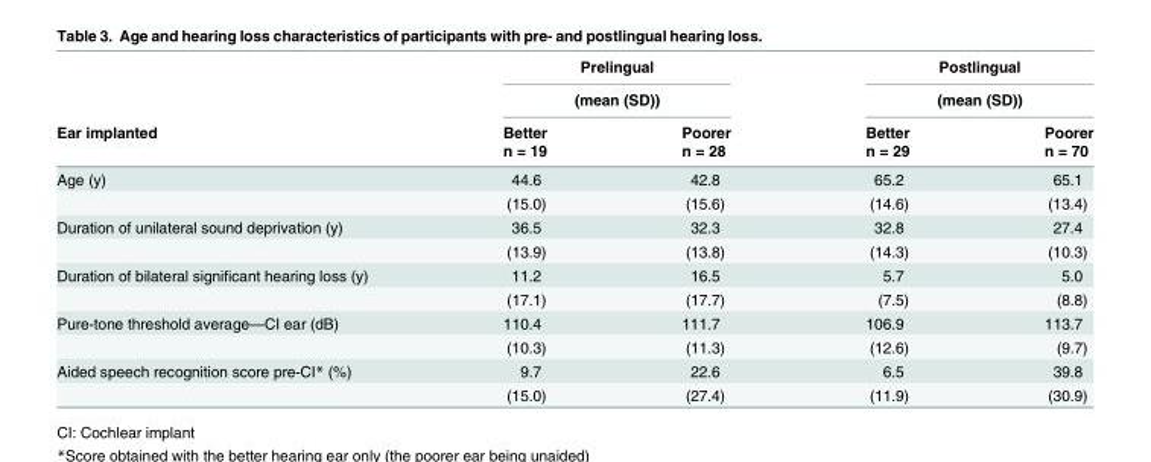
<table><thead><tr><td rowspan="4">Ear implanted</td><td rowspan="2" colspan="2">Prelingual (mean (SD))</td><td rowspan="2" colspan="2">Postlingual (mean (SD))</td></tr><tr></tr><tr><td rowspan="2">Better n = 19</td><td rowspan="2">Poorer n = 28</td><td rowspan="2">Better n = 29</td><td rowspan="2">Poorer n = 70</td></tr><tr></tr></thead><tbody><tr><td rowspan="2">Age (y)</td><td>44.6</td><td>42.8</td><td>65.2</td><td>65.1</td></tr><tr><td>(15.0)</td><td>(15.6)</td><td>(14.6)</td><td>(13.4)</td></tr><tr><td rowspan="2">Duration of unilateral sound deprivation (y)</td><td>36.5</td><td>32.3</td><td>32.8</td><td>27.4</td></tr><tr><td>(13.9)</td><td>(13.8)</td><td>(14.3)</td><td>(10.3)</td></tr><tr><td rowspan="2">Duration of bilateral significant hearing loss (y)</td><td>11.2</td><td>16.5</td><td>5.7</td><td>5.0</td></tr><tr><td>(17.1)</td><td>(17.7)</td><td>(7.5)</td><td>(8.8)</td></tr><tr><td rowspan="2">Pure-tone threshold average—CI ear (dB)</td><td>110.4</td><td>111.7</td><td>106.9</td><td>113.7</td></tr><tr><td>(10.3)</td><td>(11.3)</td><td>(12.6)</td><td>(9.7)</td></tr><tr><td rowspan="2">Aided speech recognition score pre-CI* (%)</td><td>9.7</td><td>22.6</td><td>6.5</td><td>39.8</td></tr><tr><td>(15.0)</td><td>(27.4)</td><td>(11.9)</td><td>(30.9)</td></tr></tbody></table>